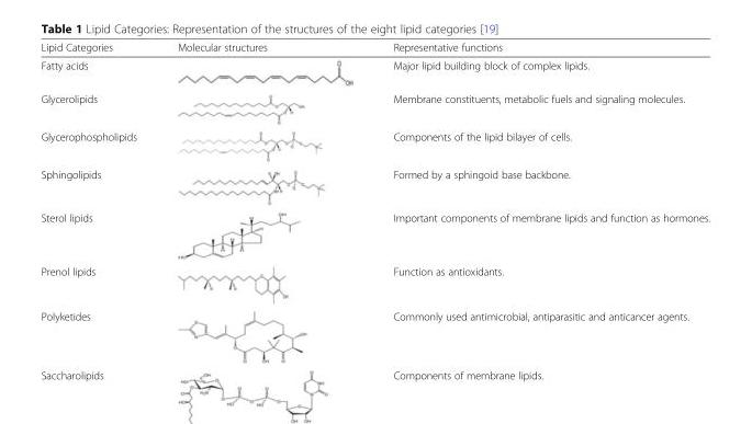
<table><thead><tr><td>Lipid Categories</td><td>Molecular structures</td><td>Representative functions</td></tr></thead><tbody><tr><td>Fatty acids</td><td></td><td>Major lipid building block of complex lipids.</td></tr><tr><td>Glycerolipids</td><td></td><td>Membrane constituents, metabolic fuels and signaling molecules.</td></tr><tr><td>Glycerophospholipids</td><td></td><td>Components of the lipid bilayer of cells.</td></tr><tr><td>Sphingolipids</td><td></td><td>Formed by a sphingoid base backbone.</td></tr><tr><td>Sterol lipids</td><td></td><td>Important components of membrane lipids and function as hormones.</td></tr><tr><td>Prenol lipids</td><td></td><td>Function as antioxidants.</td></tr><tr><td>Polyketides</td><td></td><td>Commonly used antimicrobial, antiparasitic and anticancer agents.</td></tr><tr><td>Saccharolipids</td><td></td><td>Components of membrane lipids.</td></tr></tbody></table>